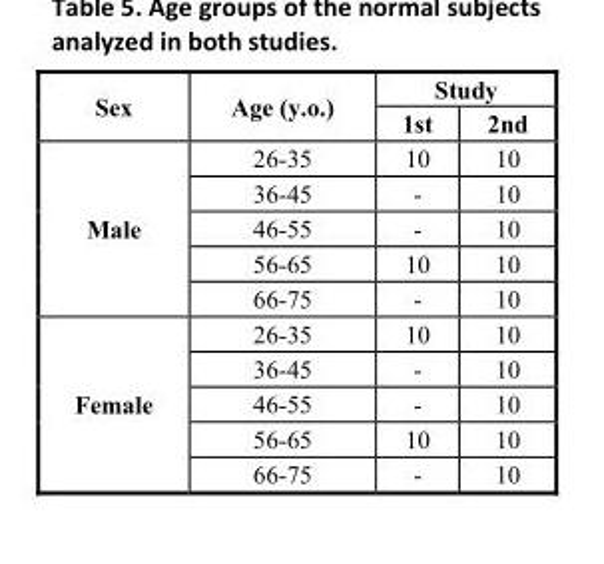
<table><tbody><tr><td rowspan="2">Sex</td><td rowspan="2">Age (y.o.)</td><td colspan="2">Study</td></tr><tr><td>1st</td><td>2nd</td></tr><tr><td rowspan="5">Male</td><td>26-35</td><td>10</td><td>10</td></tr><tr><td>36-45</td><td>-</td><td>10</td></tr><tr><td>46-55</td><td>-</td><td>10</td></tr><tr><td>56-65</td><td>10</td><td>10</td></tr><tr><td>66-75</td><td>-</td><td>10</td></tr><tr><td rowspan="5">Female</td><td>26-35</td><td>10</td><td>10</td></tr><tr><td>36-45</td><td>-</td><td>10</td></tr><tr><td>46-55</td><td>-</td><td>10</td></tr><tr><td>56-65</td><td>10</td><td>10</td></tr><tr><td>66-75</td><td>-</td><td>10</td></tr></tbody></table>